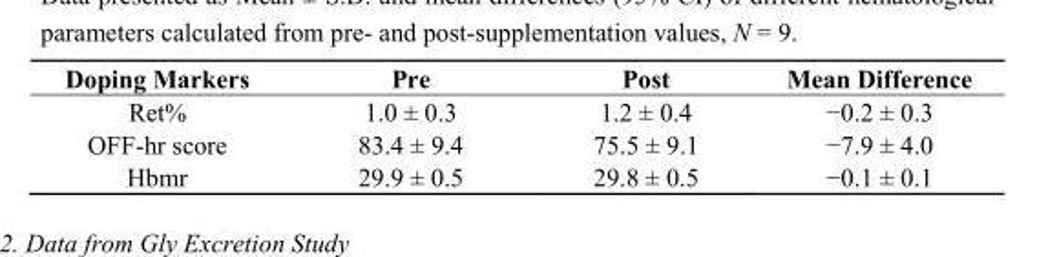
<table><thead><tr><td>Doping Markers</td><td>Pre</td><td>Post</td><td>Mean Difference</td></tr></thead><tbody><tr><td>Ret%</td><td>1.0 ± 0.3</td><td>1.2 ± 0.4</td><td>−0.2 ± 0.3</td></tr><tr><td>OFF-hr score</td><td>83.4 ± 9.4</td><td>75.5 ± 9.1</td><td>−7.9 ± 4.0</td></tr><tr><td>Hbmr</td><td>29.9 ± 0.5</td><td>29.8 ± 0.5</td><td>−0.1 ± 0.1</td></tr></tbody></table>